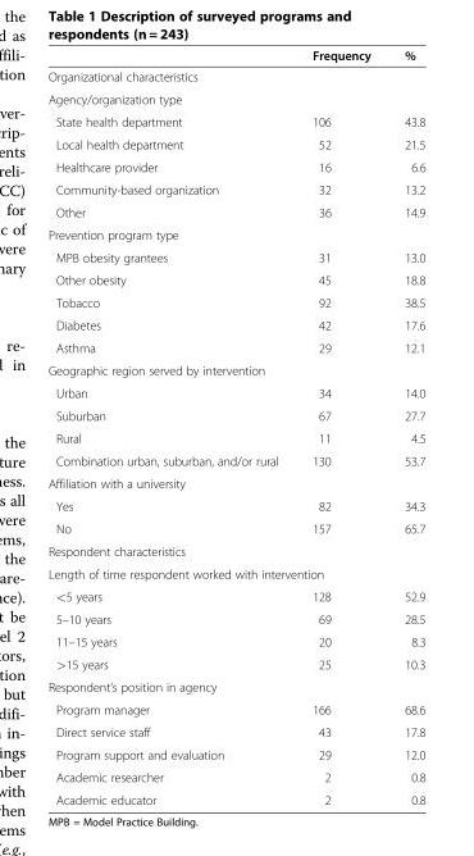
<table><thead><tr><td></td><td>Frequency</td><td>%</td></tr></thead><tbody><tr><td colspan="3">Organizational characteristics</td></tr><tr><td colspan="3">Agency/organization type</td></tr><tr><td>State health department</td><td>106</td><td>43.8</td></tr><tr><td>Local health department</td><td>52</td><td>21.5</td></tr><tr><td>Healthcare provider</td><td>16</td><td>6.6</td></tr><tr><td>Community-based organization</td><td>32</td><td>13.2</td></tr><tr><td>Other</td><td>36</td><td>14.9</td></tr><tr><td colspan="3">Prevention program type</td></tr><tr><td>MPB obesity grantees</td><td>31</td><td>13.0</td></tr><tr><td>Other obesity</td><td>45</td><td>18.8</td></tr><tr><td>Tobacco</td><td>92</td><td>38.5</td></tr><tr><td>Diabetes</td><td>42</td><td>17.6</td></tr><tr><td>Asthma</td><td>29</td><td>12.1</td></tr><tr><td colspan="3">Geographic region served by intervention</td></tr><tr><td>Urban</td><td>34</td><td>14.0</td></tr><tr><td>Suburban</td><td>67</td><td>27.7</td></tr><tr><td>Rural</td><td>11</td><td>4.5</td></tr><tr><td>Combination urban, suburban, and/or rural</td><td>130</td><td>53.7</td></tr><tr><td colspan="3">Affiliation with a university</td></tr><tr><td>Yes</td><td>82</td><td>34.3</td></tr><tr><td>No</td><td>157</td><td>65.7</td></tr><tr><td colspan="3">Respondent characteristics</td></tr><tr><td colspan="3">Length of time respondent worked with intervention</td></tr><tr><td>&lt;5 years</td><td>128</td><td>52.9</td></tr><tr><td>5–10 years</td><td>69</td><td>28.5</td></tr><tr><td>11–15 years</td><td>20</td><td>8.3</td></tr><tr><td>&gt;15 years</td><td>25</td><td>10.3</td></tr><tr><td colspan="3">Respondent’s position in agency</td></tr><tr><td>Program manager</td><td>166</td><td>68.6</td></tr><tr><td>Direct service staff</td><td>43</td><td>17.8</td></tr><tr><td>Program support and evaluation</td><td>29</td><td>12.0</td></tr><tr><td>Academic researcher</td><td>2</td><td>0.8</td></tr><tr><td>Academic educator</td><td>2</td><td>0.8</td></tr></tbody></table>